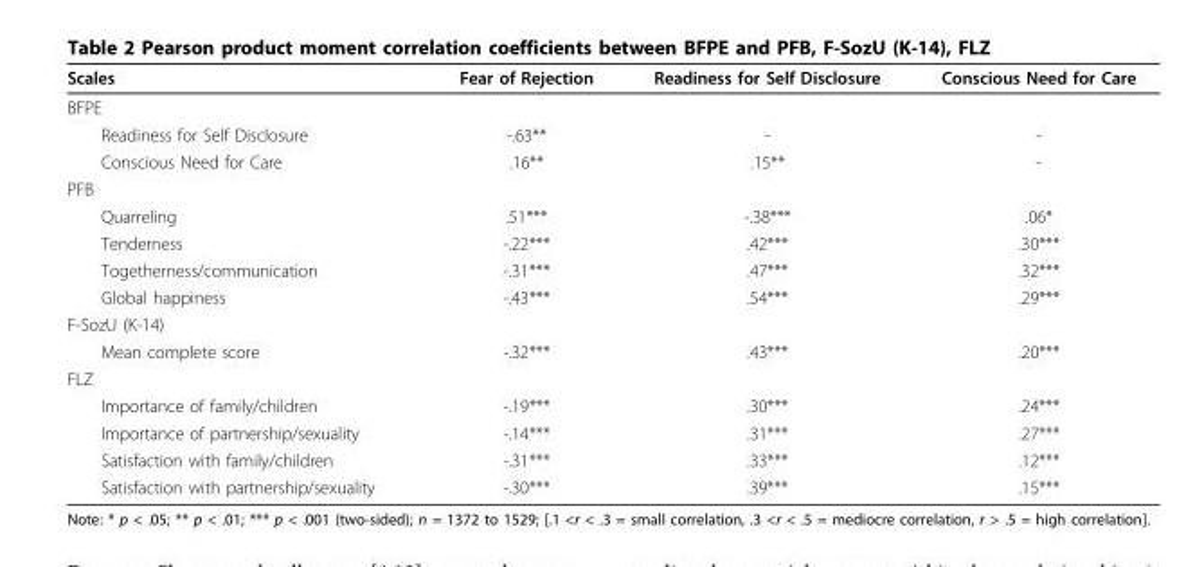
<table><thead><tr><td>Scales</td><td>Fear of Rejection</td><td>Readiness for Self Disclosure</td><td>Conscious Need for Care</td></tr></thead><tbody><tr><td colspan="4">BFPE</td></tr><tr><td>Readiness for Self Disclosure</td><td>-.63**</td><td>-</td><td>-</td></tr><tr><td>Conscious Need for Care</td><td>.16**</td><td>.15**</td><td>-</td></tr><tr><td colspan="4">PFB</td></tr><tr><td>Quarreling</td><td>.51***</td><td>-.38***</td><td>.06*</td></tr><tr><td>Tenderness</td><td>-.22***</td><td>.42***</td><td>.30***</td></tr><tr><td>Togetherness/communication</td><td>-.31***</td><td>.47***</td><td>.32***</td></tr><tr><td>Global happiness</td><td>-.43***</td><td>.54***</td><td>.29***</td></tr><tr><td colspan="4">F-SozU (K-14)</td></tr><tr><td>Mean complete score</td><td>-.32***</td><td>.43***</td><td>.20***</td></tr><tr><td colspan="4">FLZ</td></tr><tr><td>Importance of family/children</td><td>-.19***</td><td>.30***</td><td>.24***</td></tr><tr><td>Importance of partnership/sexuality</td><td>-.14***</td><td>.31***</td><td>.27***</td></tr><tr><td>Satisfaction with family/children</td><td>-.31***</td><td>.33***</td><td>.12***</td></tr><tr><td>Satisfaction with partnership/sexuality</td><td>-.30***</td><td>.39***</td><td>.15***</td></tr></tbody></table>